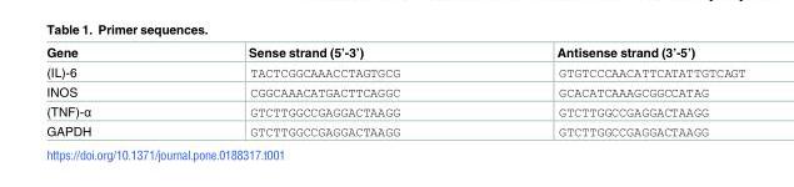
<table><thead><tr><td>Gene</td><td>Sense strand (5’-3’)</td><td>Antisense strand (3’-5’)</td></tr></thead><tbody><tr><td>(IL)-6</td><td>TACTCGGCAAACCTAGTGCG</td><td>GTGTCCCAACATTCATATTGTCAGT</td></tr><tr><td>INOS</td><td>CGGCAAACATGACTTCAGGC</td><td>GCACATCAAAGCGGCCATAG</td></tr><tr><td>(TNF)-α</td><td>GTCTTGGCCGAGGACTAAGG</td><td>GTCTTGGCCGAGGACTAAGG</td></tr><tr><td>GAPDH</td><td>GTCTTGGCCGAGGACTAAGG</td><td>GTCTTGGCCGAGGACTAAGG</td></tr></tbody></table>